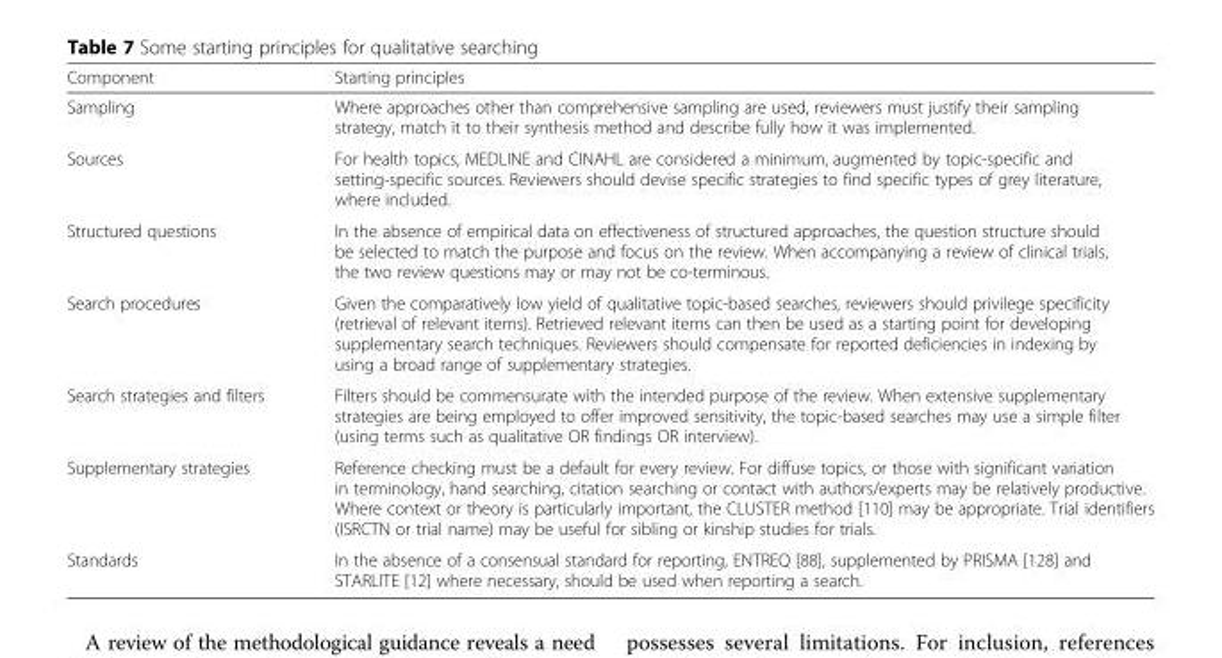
<table><thead><tr><td>Component</td><td>Starting principles</td></tr></thead><tbody><tr><td>Sampling</td><td>Where approaches other than comprehensive sampling are used, reviewers must justify their sampling strategy, match it to their synthesis method and describe fully how it was implemented.</td></tr><tr><td>Sources</td><td>For health topics, MEDLINE and CINAHL are considered a minimum, augmented by topic-specific and setting-specific sources. Reviewers should devise specific strategies to find specific types of grey literature, where included.</td></tr><tr><td>Structured questions</td><td>In the absence of empirical data on effectiveness of structured approaches, the question structure should be selected to match the purpose and focus on the review. When accompanying a review of clinical trials, the two review questions may or may not be co-terminous.</td></tr><tr><td>Search procedures</td><td>Given the comparatively low yield of qualitative topic-based searches, reviewers should privilege specificity (retrieval of relevant items). Retrieved relevant items can then be used as a starting point for developing supplementary search techniques. Reviewers should compensate for reported deficiencies in indexing by using a broad range of supplementary strategies.</td></tr><tr><td>Search strategies and filters</td><td>Filters should be commensurate with the intended purpose of the review. When extensive supplementary strategies are being employed to offer improved sensitivity, the topic-based searches may use a simple filter (using terms such as qualitative OR findings OR interview).</td></tr><tr><td>Supplementary strategies</td><td>Reference checking must be a default for every review. For diffuse topics, or those with significant variation in terminology, hand searching, citation searching or contact with authors/experts may be relatively productive. Where context or theory is particularly important, the CLUSTER method [110] may be appropriate. Trial identifiers (ISRCTN or trial name) may be useful for sibling or kinship studies for trials.</td></tr><tr><td>Standards</td><td>In the absence of a consensual standard for reporting, ENTREQ [88], supplemented by PRISMA [128] and STARLITE [12] where necessary, should be used when reporting a search.</td></tr></tbody></table>